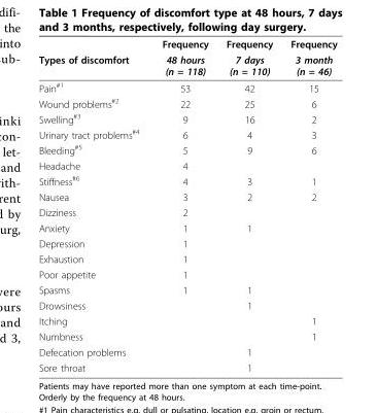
<table><thead><tr><td rowspan="2">Types of discomfort</td><td rowspan="2">Frequency 48 hours (n = 118)</td><td rowspan="2">Frequency 7 days (n = 110)</td><td rowspan="2">Frequency 3 month (n = 46)</td></tr><tr></tr></thead><tbody><tr><td>Pain<sup>#1</sup></td><td>53</td><td>42</td><td>15</td></tr><tr><td>Wound problems<sup>#2</sup></td><td>22</td><td>25</td><td>6</td></tr><tr><td>Swelling<sup>#3</sup></td><td>9</td><td>16</td><td>2</td></tr><tr><td>Urinary tract problems<sup>#4</sup></td><td>6</td><td>4</td><td>3</td></tr><tr><td>Bleeding<sup>#5</sup></td><td>5</td><td>9</td><td>6</td></tr><tr><td>Headache</td><td>4</td><td></td><td></td></tr><tr><td>Stiffness<sup>#6</sup></td><td>4</td><td>3</td><td>1</td></tr><tr><td>Nausea</td><td>3</td><td>2</td><td>2</td></tr><tr><td>Dizziness</td><td>2</td><td></td><td></td></tr><tr><td>Anxiety</td><td>1</td><td>1</td><td></td></tr><tr><td>Depression</td><td>1</td><td></td><td></td></tr><tr><td>Exhaustion</td><td>1</td><td></td><td></td></tr><tr><td>Poor appetite</td><td>1</td><td></td><td></td></tr><tr><td>Spasms</td><td>1</td><td>1</td><td></td></tr><tr><td>Drowsiness</td><td></td><td>1</td><td></td></tr><tr><td>Itching</td><td></td><td></td><td>1</td></tr><tr><td>Numbness</td><td></td><td></td><td>1</td></tr><tr><td>Defecation problems</td><td></td><td>1</td><td></td></tr><tr><td>Sore throat</td><td></td><td>1</td><td></td></tr></tbody></table>